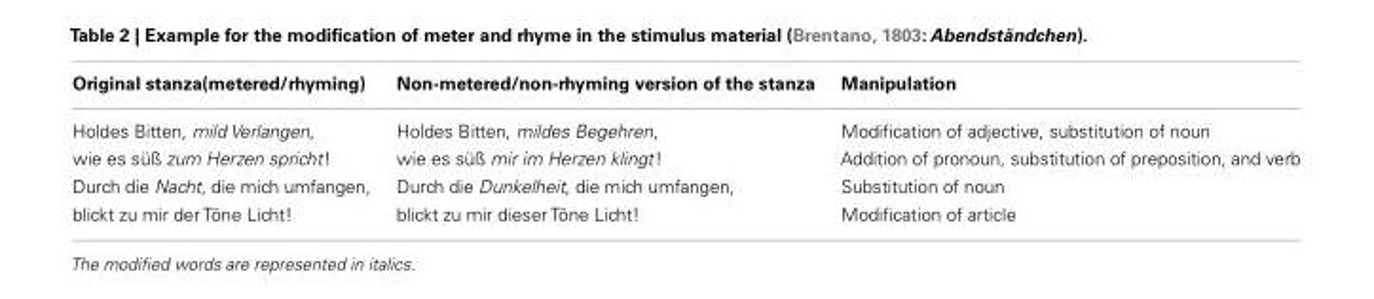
<table><thead><tr><td>Original stanza(metered/rhyming)</td><td>Non-metered/non-rhyming version of the stanza</td><td>Manipulation</td></tr></thead><tbody><tr><td>Holdes Bitten, mild Verlangen,</td><td>Holdes Bitten, mildes Begehren,</td><td>Modification of adjective, substitution of noun</td></tr><tr><td>wie es süß zum Herzen spricht!</td><td>wie es süß mir im Herzen klingt!</td><td>Addition of pronoun, substitution of preposition, and verb</td></tr><tr><td>Durch die Nacht, die mich umfangen,</td><td>Durch die Dunkelheit, die mich umfangen,</td><td>Substitution of noun</td></tr><tr><td>blickt zu mir der Töne Licht!</td><td>blickt zu mir dieser Töne Licht!</td><td>Modification of article</td></tr></tbody></table>